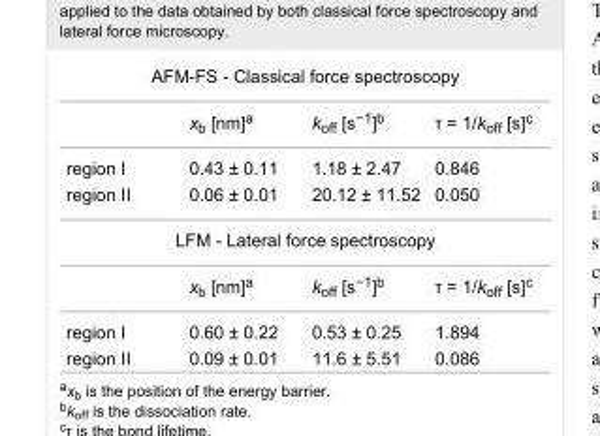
<table><tbody><tr><td colspan="4">AFM-FS - Classical force spectroscopy</td></tr><tr><td></td><td>x<sub>b</sub> [nm]<sup>a</sup></td><td>k<sub>off</sub> [s<sup>−1</sup>]<sup>b</sup></td><td>τ = 1/k<sub>off</sub> [s]<sup>c</sup></td></tr><tr><td>region I</td><td>0.43 ± 0.11</td><td>1.18 ± 2.47</td><td>0.846</td></tr><tr><td>region II</td><td>0.06 ± 0.01</td><td>20.12 ± 11.52</td><td>0.050</td></tr><tr><td colspan="4">LFM - Lateral force spectroscopy</td></tr><tr><td></td><td>x<sub>b</sub> [nm]<sup>a</sup></td><td>k<sub>off</sub> [s<sup>−1</sup>]<sup>b</sup></td><td>τ = 1/k<sub>off</sub> [s]<sup>c</sup></td></tr><tr><td>region I</td><td>0.60 ± 0.22</td><td>0.53 ± 0.25</td><td>1.894</td></tr><tr><td>region II</td><td>0.09 ± 0.01</td><td>11.6 ± 5.51</td><td>0.086</td></tr></tbody></table>